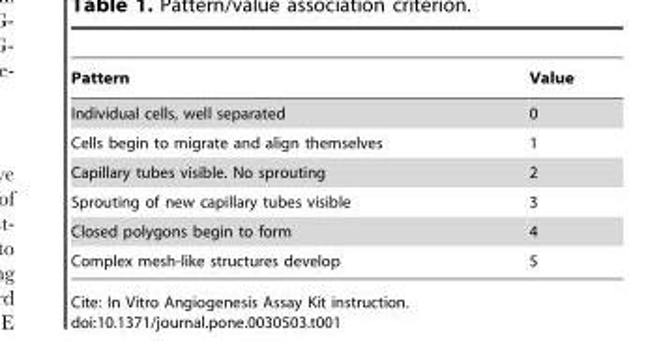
<table><thead><tr><td>Pattern</td><td>Value</td></tr></thead><tbody><tr><td>Individual cells, well separated</td><td>0</td></tr><tr><td>Cells begin to migrate and align themselves</td><td>1</td></tr><tr><td>Capillary tubes visible. No sprouting</td><td>2</td></tr><tr><td>Sprouting of new capillary tubes visible</td><td>3</td></tr><tr><td>Closed polygons begin to form</td><td>4</td></tr><tr><td>Complex mesh-like structures develop</td><td>5</td></tr></tbody></table>